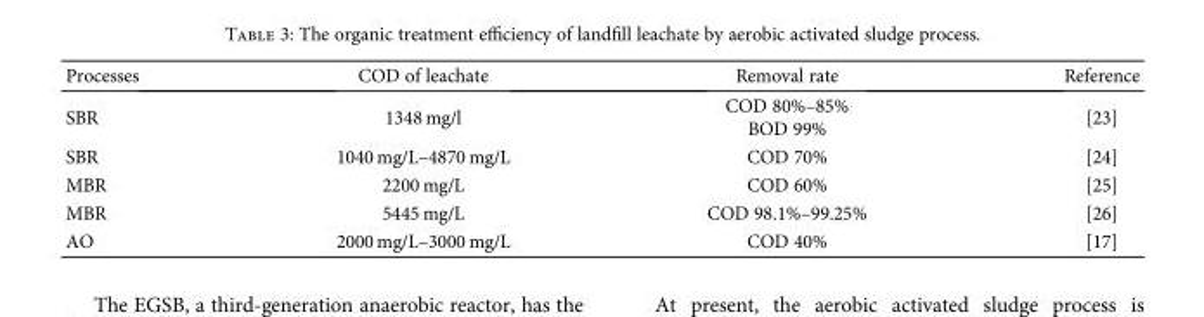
<table><thead><tr><td>Processes</td><td>COD of leachate</td><td>Removal rate</td><td>Reference</td></tr></thead><tbody><tr><td>SBR</td><td>1348 mg/l</td><td>COD 80%–85% BOD 99%</td><td>[23]</td></tr><tr><td>SBR</td><td>1040 mg/L–4870 mg/L</td><td>COD 70%</td><td>[24]</td></tr><tr><td>MBR</td><td>2200 mg/L</td><td>COD 60%</td><td>[25]</td></tr><tr><td>MBR</td><td>5445 mg/L</td><td>COD 98.1%–99.25%</td><td>[26]</td></tr><tr><td>AO</td><td>2000 mg/L–3000 mg/L</td><td>COD 40%</td><td>[17]</td></tr></tbody></table>